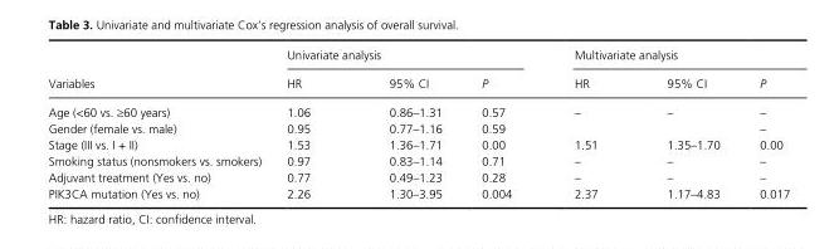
<table><thead><tr><td rowspan="2">Variables</td><td colspan="3">Univariate analysis</td><td colspan="3">Multivariate analysis</td></tr><tr><td>HR</td><td>95% CI</td><td>P</td><td>HR</td><td>95% CI</td><td>P</td></tr></thead><tbody><tr><td>Age (&lt;60 vs. ≥60 years)</td><td>1.06</td><td>0.86–1.31</td><td>0.57</td><td>–</td><td>–</td><td>–</td></tr><tr><td>Gender (female vs. male)</td><td>0.95</td><td>0.77–1.16</td><td>0.59</td><td></td><td></td><td>–</td></tr><tr><td>Stage (III vs. I + II)</td><td>1.53</td><td>1.36–1.71</td><td>0.00</td><td>1.51</td><td>1.35–1.70</td><td>0.00</td></tr><tr><td>Smoking status (nonsmokers vs. smokers)</td><td>0.97</td><td>0.83–1.14</td><td>0.71</td><td>–</td><td>–</td><td>–</td></tr><tr><td>Adjuvant treatment (Yes vs. no)</td><td>0.77</td><td>0.49–1.23</td><td>0.28</td><td>–</td><td>–</td><td>–</td></tr><tr><td>PIK3CA mutation (Yes vs. no)</td><td>2.26</td><td>1.30–3.95</td><td>0.004</td><td>2.37</td><td>1.17–4.83</td><td>0.017</td></tr></tbody></table>